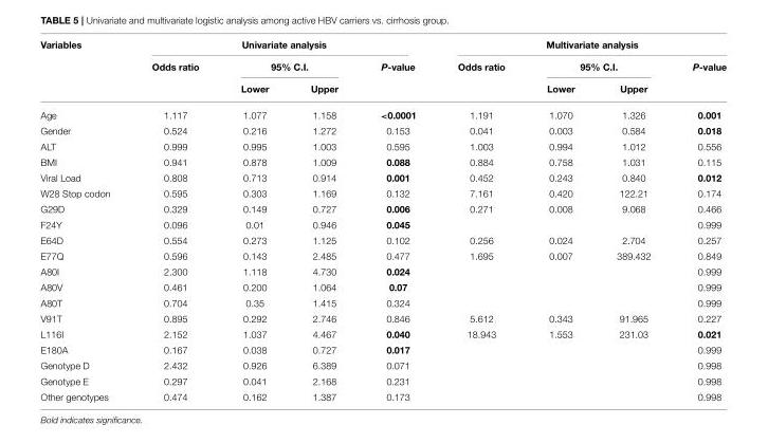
<table><thead><tr><td rowspan="3">Variables</td><td colspan="4">Univariate analysis</td><td colspan="4">Multivariate analysis</td></tr><tr><td rowspan="2">Odds ratio</td><td colspan="2">95% C.I.</td><td rowspan="2">P-value</td><td rowspan="2">Odds ratio</td><td colspan="2">95% C.I.</td><td rowspan="2">P-value</td></tr><tr><td>Lower</td><td>Upper</td><td>Lower</td><td>Upper</td></tr></thead><tbody><tr><td>Age</td><td>1.117</td><td>1.077</td><td>1.158</td><td>&lt;0.0001</td><td>1.191</td><td>1.070</td><td>1.326</td><td>0.001</td></tr><tr><td>Gender</td><td>0.524</td><td>0.216</td><td>1.272</td><td>0.153</td><td>0.041</td><td>0.003</td><td>0.584</td><td>0.018</td></tr><tr><td>ALT</td><td>0.999</td><td>0.995</td><td>1.003</td><td>0.595</td><td>1.003</td><td>0.994</td><td>1.012</td><td>0.556</td></tr><tr><td>BMI</td><td>0.941</td><td>0.878</td><td>1.009</td><td>0.088</td><td>0.884</td><td>0.758</td><td>1.031</td><td>0.115</td></tr><tr><td>Viral Load</td><td>0.808</td><td>0.713</td><td>0.914</td><td>0.001</td><td>0.452</td><td>0.243</td><td>0.840</td><td>0.012</td></tr><tr><td>W28 Stop codon</td><td>0.595</td><td>0.303</td><td>1.169</td><td>0.132</td><td>7.161</td><td>0.420</td><td>122.21</td><td>0.174</td></tr><tr><td>G29D</td><td>0.329</td><td>0.149</td><td>0.727</td><td>0.006</td><td>0.271</td><td>0.008</td><td>9.068</td><td>0.466</td></tr><tr><td>F24Y</td><td>0.096</td><td>0.01</td><td>0.946</td><td>0.045</td><td></td><td></td><td></td><td>0.999</td></tr><tr><td>E64D</td><td>0.554</td><td>0.273</td><td>1.125</td><td>0.102</td><td>0.256</td><td>0.024</td><td>2.704</td><td>0.257</td></tr><tr><td>E77Q</td><td>0.596</td><td>0.143</td><td>2.485</td><td>0.477</td><td>1.695</td><td>0.007</td><td>389.432</td><td>0.849</td></tr><tr><td>A80I</td><td>2.300</td><td>1.118</td><td>4.730</td><td>0.024</td><td></td><td></td><td></td><td>0.999</td></tr><tr><td>A80V</td><td>0.461</td><td>0.200</td><td>1.064</td><td>0.07</td><td></td><td></td><td></td><td>0.999</td></tr><tr><td>A80T</td><td>0.704</td><td>0.35</td><td>1.415</td><td>0.324</td><td></td><td></td><td></td><td>0.999</td></tr><tr><td>V91T</td><td>0.895</td><td>0.292</td><td>2.746</td><td>0.846</td><td>5.612</td><td>0.343</td><td>91.965</td><td>0.227</td></tr><tr><td>L116I</td><td>2.152</td><td>1.037</td><td>4.467</td><td>0.040</td><td>18.943</td><td>1.553</td><td>231.03</td><td>0.021</td></tr><tr><td>E180A</td><td>0.167</td><td>0.038</td><td>0.727</td><td>0.017</td><td></td><td></td><td></td><td>0.999</td></tr><tr><td>Genotype D</td><td>2.432</td><td>0.926</td><td>6.389</td><td>0.071</td><td></td><td></td><td></td><td>0.998</td></tr><tr><td>Genotype E</td><td>0.297</td><td>0.041</td><td>2.168</td><td>0.231</td><td></td><td></td><td></td><td>0.998</td></tr><tr><td>Other genotypes</td><td>0.474</td><td>0.162</td><td>1.387</td><td>0.173</td><td></td><td></td><td></td><td>0.998</td></tr></tbody></table>